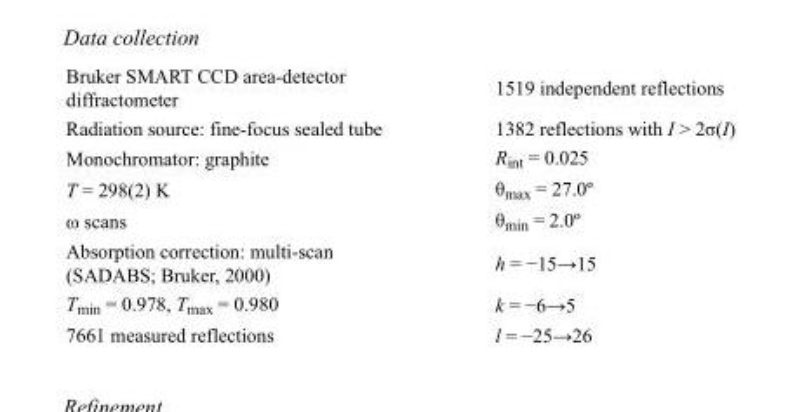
<table><tbody><tr><td>Bruker SMART CCD area-detector diffractometer</td><td>1519 independent reflections</td></tr><tr><td>Radiation source: fine-focus sealed tube</td><td>1382 reflections with I &gt; 2σ(I)</td></tr><tr><td>Monochromator: graphite</td><td>R<sub>int</sub> = 0.025</td></tr><tr><td>T = 298(2) K</td><td>θ<sub>max</sub> = 27.0º</td></tr><tr><td>ω scans</td><td>θ<sub>min</sub> = 2.0º</td></tr><tr><td>Absorption correction: multi-scan (SADABS; Bruker, 2000)</td><td>h = −15→15</td></tr><tr><td>T<sub>min</sub> = 0.978, T<sub>max</sub> = 0.980</td><td>k = −6→5</td></tr><tr><td>7661 measured reflections</td><td>l = −25→26</td></tr></tbody></table>